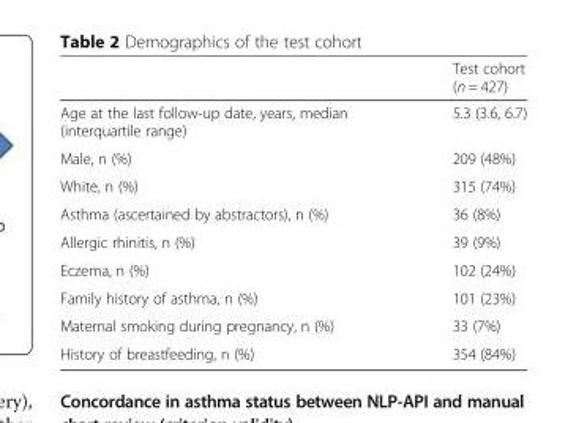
<table><thead><tr><td></td><td>Test cohort (n = 427)</td></tr></thead><tbody><tr><td>Age at the last follow-up date, years, median (interquartile range)</td><td>5.3 (3.6, 6.7)</td></tr><tr><td>Male, n (%)</td><td>209 (48%)</td></tr><tr><td>White, n (%)</td><td>315 (74%)</td></tr><tr><td>Asthma (ascertained by abstractors), n (%)</td><td>36 (8%)</td></tr><tr><td>Allergic rhinitis, n (%)</td><td>39 (9%)</td></tr><tr><td>Eczema, n (%)</td><td>102 (24%)</td></tr><tr><td>Family history of asthma, n (%)</td><td>101 (23%)</td></tr><tr><td>Maternal smoking during pregnancy, n (%)</td><td>33 (7%)</td></tr><tr><td>History of breastfeeding, n (%)</td><td>354 (84%)</td></tr></tbody></table>